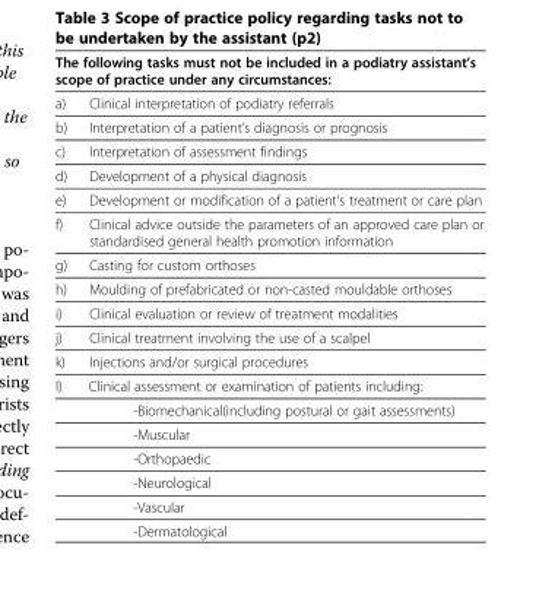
<table><thead><tr><td colspan="2">The following tasks must not be included in a podiatry assistant’s scope of practice under any circumstances:</td></tr><tr><td>a)</td><td>Clinical interpretation of podiatry referrals</td></tr></thead><tbody><tr><td>b)</td><td>Interpretation of a patient’s diagnosis or prognosis</td></tr><tr><td>c)</td><td>Interpretation of assessment findings</td></tr><tr><td>d)</td><td>Development of a physical diagnosis</td></tr><tr><td>e)</td><td>Development or modification of a patient’s treatment or care plan</td></tr><tr><td>f)</td><td>Clinical advice outside the parameters of an approved care plan or standardised general health promotion information</td></tr><tr><td>g)</td><td>Casting for custom orthoses</td></tr><tr><td>h)</td><td>Moulding of prefabricated or non-casted mouldable orthoses</td></tr><tr><td>i)</td><td>Clinical evaluation or review of treatment modalities</td></tr><tr><td>j)</td><td>Clinical treatment involving the use of a scalpel</td></tr><tr><td>k)</td><td>Injections and/or surgical procedures</td></tr><tr><td colspan="2">l) Clinical assessment or examination of patients including:</td></tr><tr><td colspan="2">-Biomechanical(including postural or gait assessments)</td></tr><tr><td colspan="2">-Muscular</td></tr><tr><td colspan="2">-Orthopaedic</td></tr><tr><td colspan="2">-Neurological</td></tr><tr><td colspan="2">-Vascular</td></tr><tr><td colspan="2">-Dermatological</td></tr></tbody></table>